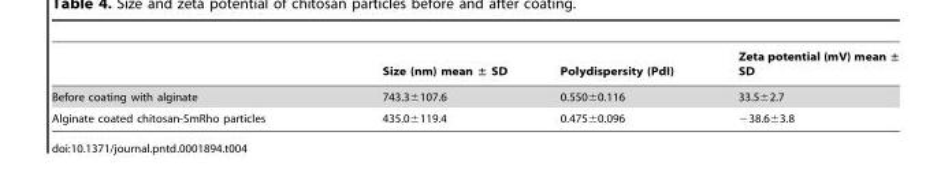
<table><thead><tr><td></td><td>Size (nm) mean ± SD</td><td>Polydispersity (PdI)</td><td>Zeta potential (mV) mean ± SD</td></tr></thead><tbody><tr><td>Before coating with alginate</td><td>743.3±107.6</td><td>0.550±0.116</td><td>33.5±2.7</td></tr><tr><td>Alginate coated chitosan-SmRho particles</td><td>435.0±119.4</td><td>0.475±0.096</td><td>−38.6±3.8</td></tr></tbody></table>